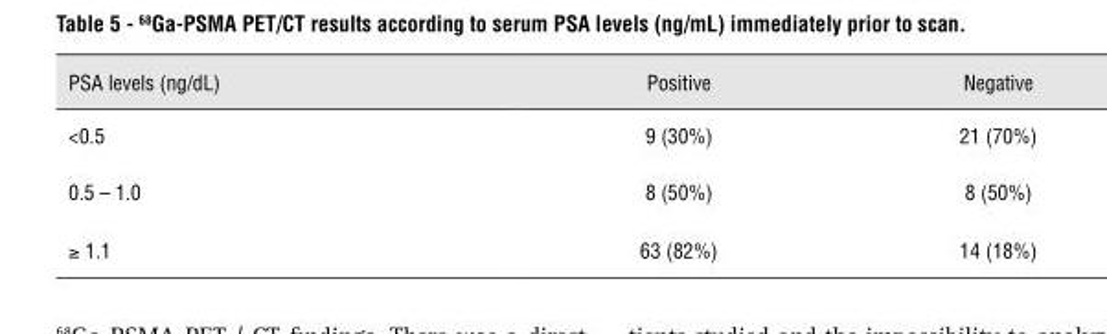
<table><thead><tr><td>PSA levels (ng/dL)</td><td>Positive</td><td>Negative</td></tr></thead><tbody><tr><td>&lt;0.5</td><td>9 (30%)</td><td>21 (70%)</td></tr><tr><td>0.5 – 1.0</td><td>8 (50%)</td><td>8 (50%)</td></tr><tr><td>≥ 1.1</td><td>63 (82%)</td><td>14 (18%)</td></tr></tbody></table>